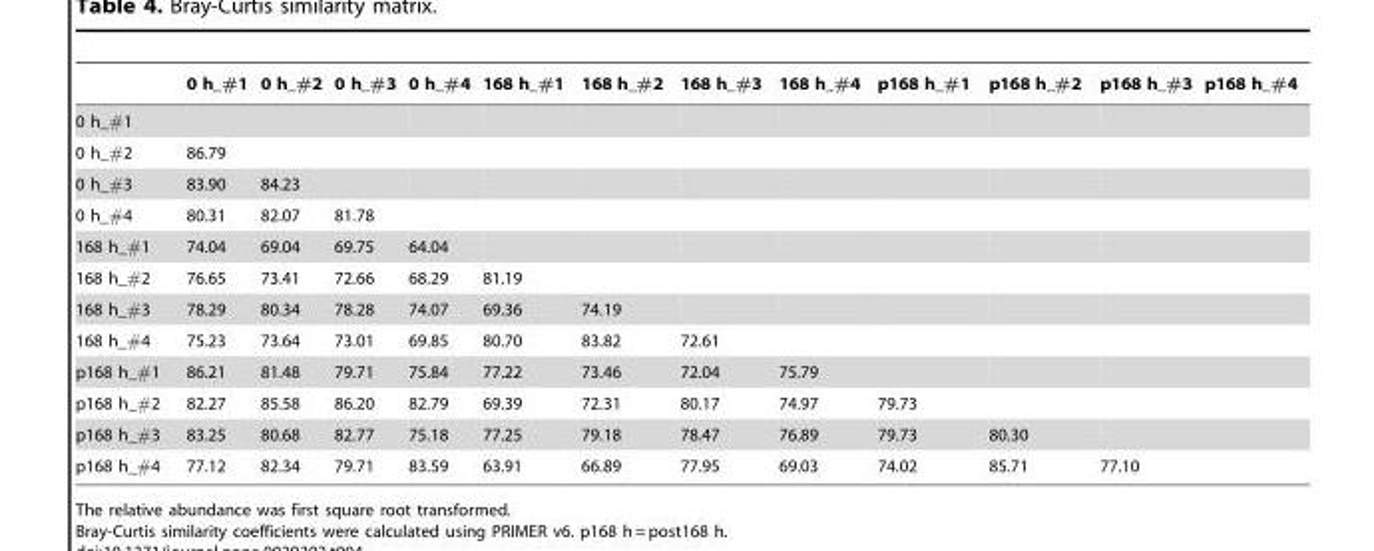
<table><thead><tr><td></td><td>0 h_#1</td><td>0 h_#2</td><td>0 h_#3</td><td>0 h_#4</td><td>168 h_#1</td><td>168 h_#2</td><td>168 h_#3</td><td>168 h_#4</td><td>p168 h_#1</td><td>p168 h_#2</td><td>p168 h_#3</td><td>p168 h_#4</td></tr></thead><tbody><tr><td colspan="13">0 h_#1</td></tr><tr><td>0 h_#2</td><td>86.79</td><td></td><td></td><td></td><td></td><td></td><td></td><td></td><td></td><td></td><td></td><td></td></tr><tr><td>0 h_#3</td><td>83.90</td><td>84.23</td><td></td><td></td><td></td><td></td><td></td><td></td><td></td><td></td><td></td><td></td></tr><tr><td>0 h_#4</td><td>80.31</td><td>82.07</td><td>81.78</td><td></td><td></td><td></td><td></td><td></td><td></td><td></td><td></td><td></td></tr><tr><td>168 h_#1</td><td>74.04</td><td>69.04</td><td>69.75</td><td>64.04</td><td></td><td></td><td></td><td></td><td></td><td></td><td></td><td></td></tr><tr><td>168 h_#2</td><td>76.65</td><td>73.41</td><td>72.66</td><td>68.29</td><td>81.19</td><td></td><td></td><td></td><td></td><td></td><td></td><td></td></tr><tr><td>168 h_#3</td><td>78.29</td><td>80.34</td><td>78.28</td><td>74.07</td><td>69.36</td><td>74.19</td><td></td><td></td><td></td><td></td><td></td><td></td></tr><tr><td>168 h_#4</td><td>75.23</td><td>73.64</td><td>73.01</td><td>69.85</td><td>80.70</td><td>83.82</td><td>72.61</td><td></td><td></td><td></td><td></td><td></td></tr><tr><td>p168 h_#1</td><td>86.21</td><td>81.48</td><td>79.71</td><td>75.84</td><td>77.22</td><td>73.46</td><td>72.04</td><td>75.79</td><td></td><td></td><td></td><td></td></tr><tr><td>p168 h_#2</td><td>82.27</td><td>85.58</td><td>86.20</td><td>82.79</td><td>69.39</td><td>72.31</td><td>80.17</td><td>74.97</td><td>79.73</td><td></td><td></td><td></td></tr><tr><td>p168 h_#3</td><td>83.25</td><td>80.68</td><td>82.77</td><td>75.18</td><td>77.25</td><td>79.18</td><td>78.47</td><td>76.89</td><td>79.73</td><td>80.30</td><td></td><td></td></tr><tr><td>p168 h_#4</td><td>77.12</td><td>82.34</td><td>79.71</td><td>83.59</td><td>63.91</td><td>66.89</td><td>77.95</td><td>69.03</td><td>74.02</td><td>85.71</td><td>77.10</td><td></td></tr></tbody></table>